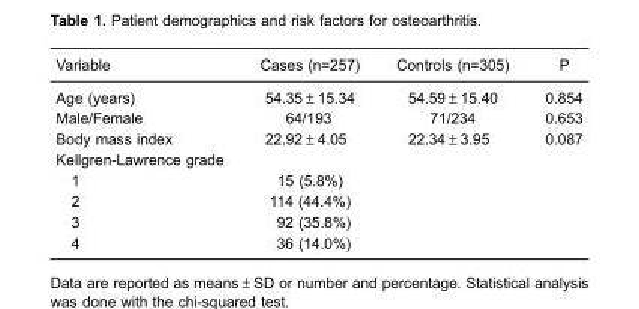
<table><thead><tr><td>Variable</td><td>Cases (n=257)</td><td>Controls (n=305)</td><td>P</td></tr></thead><tbody><tr><td>Age (years)</td><td>54.35±15.34</td><td>54.59±15.40</td><td>0.854</td></tr><tr><td>Male/Female</td><td>64/193</td><td>71/234</td><td>0.653</td></tr><tr><td>Body mass index</td><td>22.92±4.05</td><td>22.34±3.95</td><td>0.087</td></tr><tr><td colspan="4">Kellgren-Lawrence grade</td></tr><tr><td>1</td><td>15 (5.8%)</td><td></td><td></td></tr><tr><td>2</td><td>114 (44.4%)</td><td></td><td></td></tr><tr><td>3</td><td>92 (35.8%)</td><td></td><td></td></tr><tr><td>4</td><td>36 (14.0%)</td><td></td><td></td></tr></tbody></table>